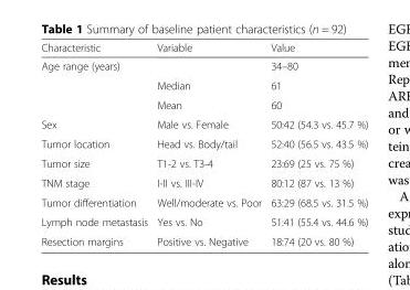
<table><thead><tr><td>Characteristic</td><td>Variable</td><td>Value</td></tr></thead><tbody><tr><td rowspan="3">Age range (years)</td><td></td><td>34–80</td></tr><tr><td>Median</td><td>61</td></tr><tr><td>Mean</td><td>60</td></tr><tr><td>Sex</td><td>Male vs. Female</td><td>50:42 (54.3 vs. 45.7 %)</td></tr><tr><td>Tumor location</td><td>Head vs. Body/tail</td><td>52:40 (56.5 vs. 43.5 %)</td></tr><tr><td>Tumor size</td><td>T1-2 vs. T3-4</td><td>23:69 (25 vs. 75 %)</td></tr><tr><td>TNM stage</td><td>I-II vs. III-IV</td><td>80:12 (87 vs. 13 %)</td></tr><tr><td>Tumor differentiation</td><td>Well/moderate vs. Poor</td><td>63:29 (68.5 vs. 31.5 %)</td></tr><tr><td>Lymph node metastasis</td><td>Yes vs. No</td><td>51:41 (55.4 vs. 44.6 %)</td></tr><tr><td>Resection margins</td><td>Positive vs. Negative</td><td>18:74 (20 vs. 80 %)</td></tr></tbody></table>